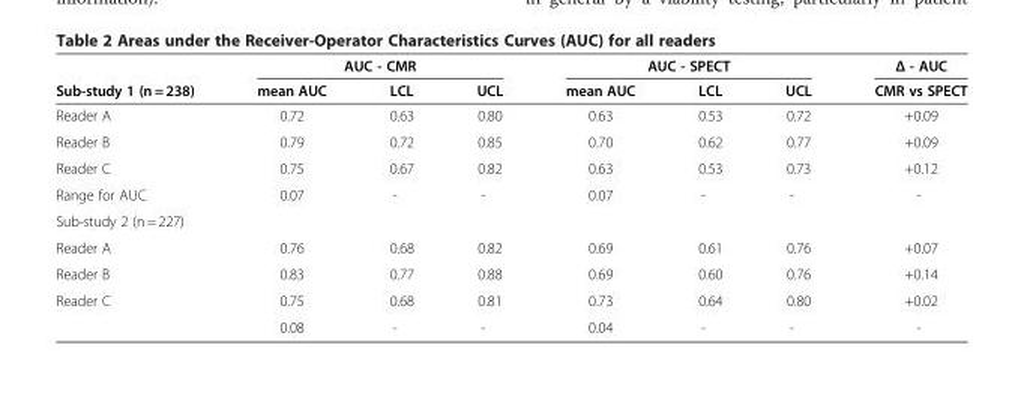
<table><thead><tr><td rowspan="2">Sub-study 1 (n = 238)</td><td colspan="3">AUC - CMR</td><td colspan="3">AUC - SPECT</td><td rowspan="2">Δ - AUC CMR vs SPECT</td></tr><tr><td>mean AUC</td><td>LCL</td><td>UCL</td><td>mean AUC</td><td>LCL</td><td>UCL</td></tr></thead><tbody><tr><td>Reader A</td><td>0.72</td><td>0.63</td><td>0.80</td><td>0.63</td><td>0.53</td><td>0.72</td><td>+0.09</td></tr><tr><td>Reader B</td><td>0.79</td><td>0.72</td><td>0.85</td><td>0.70</td><td>0.62</td><td>0.77</td><td>+0.09</td></tr><tr><td>Reader C</td><td>0.75</td><td>0.67</td><td>0.82</td><td>0.63</td><td>0.53</td><td>0.73</td><td>+0.12</td></tr><tr><td>Range for AUC</td><td>0.07</td><td>-</td><td>-</td><td>0.07</td><td>-</td><td>-</td><td>-</td></tr><tr><td colspan="8">Sub-study 2 (n = 227)</td></tr><tr><td>Reader A</td><td>0.76</td><td>0.68</td><td>0.82</td><td>0.69</td><td>0.61</td><td>0.76</td><td>+0.07</td></tr><tr><td>Reader B</td><td>0.83</td><td>0.77</td><td>0.88</td><td>0.69</td><td>0.60</td><td>0.76</td><td>+0.14</td></tr><tr><td rowspan="2">Reader C</td><td>0.75</td><td>0.68</td><td>0.81</td><td>0.73</td><td>0.64</td><td>0.80</td><td>+0.02</td></tr><tr><td>0.08</td><td>-</td><td>-</td><td>0.04</td><td>-</td><td>-</td><td>-</td></tr></tbody></table>